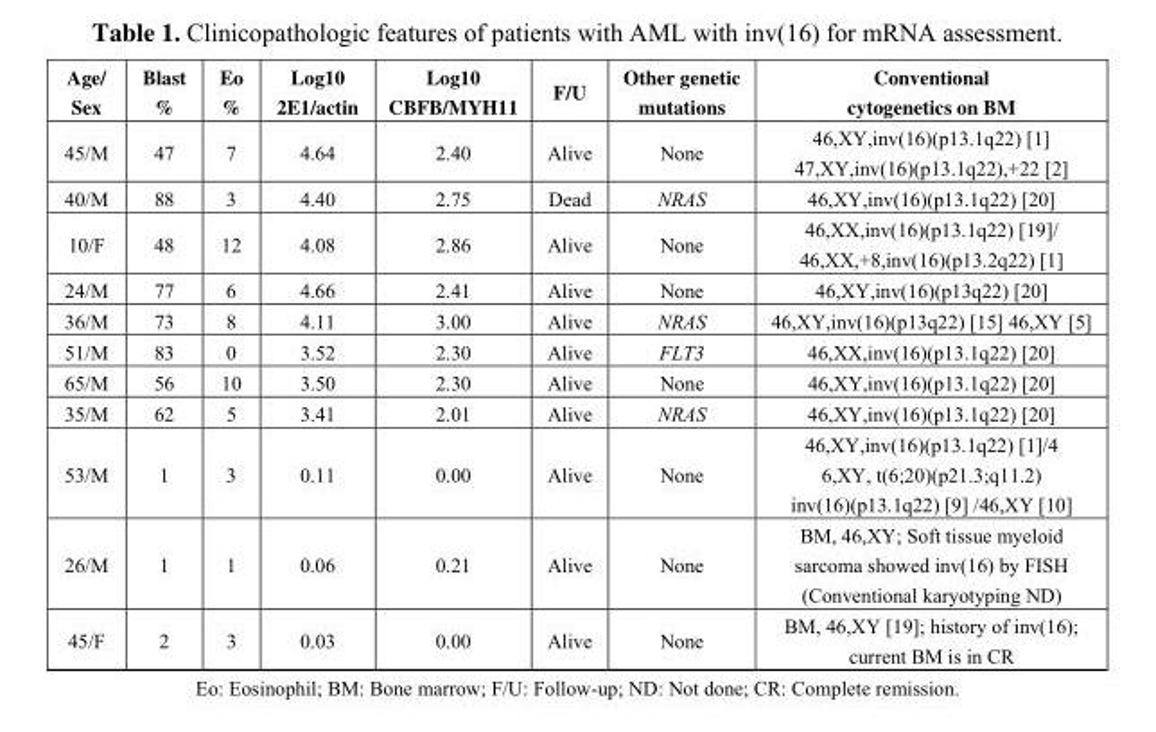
<table><thead><tr><td>Age/ Sex</td><td>Blast %</td><td>Eo %</td><td>Log10 2E1/actin</td><td>Log10 CBFB/MYH11</td><td>F/U</td><td>Other genetic mutations</td><td>Conventional cytogenetics on BM</td></tr></thead><tbody><tr><td>45/M</td><td>47</td><td>7</td><td>4.64</td><td>2.40</td><td>Alive</td><td>None</td><td>46,XY,inv(16)(p13.1q22) [1] 47,XY,inv(16)(p13.1q22),+22 [2]</td></tr><tr><td>40/M</td><td>88</td><td>3</td><td>4.40</td><td>2.75</td><td>Dead</td><td>NRAS</td><td>46,XY,inv(16)(p13.1q22) [20]</td></tr><tr><td>10/F</td><td>48</td><td>12</td><td>4.08</td><td>2.86</td><td>Alive</td><td>None</td><td>46,XX,inv(16)(p13.1q22) [19]/ 46,XX,+8,inv(16)(p13.2q22) [1]</td></tr><tr><td>24/M</td><td>77</td><td>6</td><td>4.66</td><td>2.41</td><td>Alive</td><td>None</td><td>46,XY,inv(16)(p13q22) [20]</td></tr><tr><td>36/M</td><td>73</td><td>8</td><td>4.11</td><td>3.00</td><td>Alive</td><td>NRAS</td><td>46,XY,inv(16)(p13q22) [15] 46,XY [5]</td></tr><tr><td>51/M</td><td>83</td><td>0</td><td>3.52</td><td>2.30</td><td>Alive</td><td>FLT3</td><td>46,XX,inv(16)(p13.1q22) [20]</td></tr><tr><td>65/M</td><td>56</td><td>10</td><td>3.50</td><td>2.30</td><td>Alive</td><td>None</td><td>46,XY,inv(16)(p13.1q22) [20]</td></tr><tr><td>35/M</td><td>62</td><td>5</td><td>3.41</td><td>2.01</td><td>Alive</td><td>NRAS</td><td>46,XY,inv(16)(p13.1q22) [20]</td></tr><tr><td>53/M</td><td>1</td><td>3</td><td>0.11</td><td>0.00</td><td>Alive</td><td>None</td><td>46,XY,inv(16)(p13.1q22) [1]/4 6,XY, t(6;20)(p21.3;q11.2) inv(16)(p13.1q22) [9] /46,XY [10]</td></tr><tr><td>26/M</td><td>1</td><td>1</td><td>0.06</td><td>0.21</td><td>Alive</td><td>None</td><td>BM, 46,XY; Soft tissue myeloid sarcoma showed inv(16) by FISH (Conventional karyotyping ND)</td></tr><tr><td>45/F</td><td>2</td><td>3</td><td>0.03</td><td>0.00</td><td>Alive</td><td>None</td><td>BM, 46,XY [19]; history of inv(16); current BM is in CR</td></tr></tbody></table>